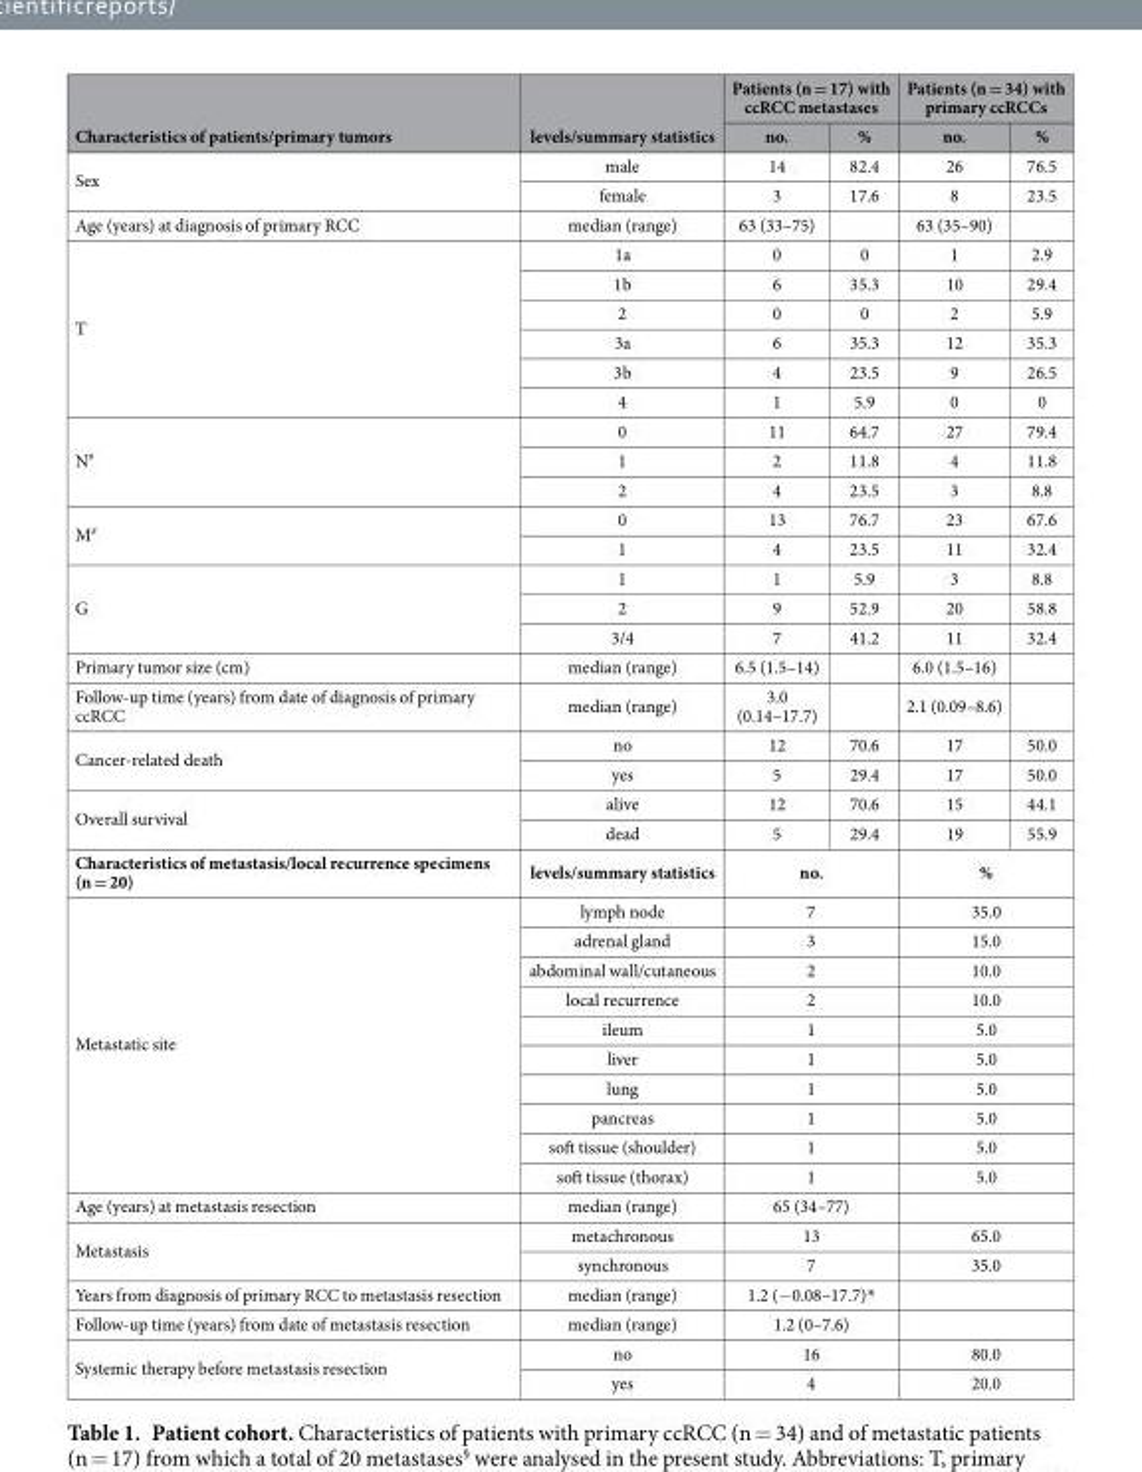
<table><thead><tr><td rowspan="2">Characteristics of patients/primary tumors</td><td rowspan="2">levels/summary statistics</td><td colspan="2">Patients (n = 17) with ccRCC metastases</td><td colspan="2">Patients (n = 34) with primary ccRCCs</td></tr><tr><td>no.</td><td>%</td><td>no.</td><td>%</td></tr></thead><tbody><tr><td rowspan="2">Sex</td><td>male</td><td>14</td><td>82.4</td><td>26</td><td>76.5</td></tr><tr><td>female</td><td>3</td><td>17.6</td><td>8</td><td>23.5</td></tr><tr><td>Age (years) at diagnosis of primary RCC</td><td>median (range)</td><td>63 (33–75)</td><td></td><td>63 (35–90)</td><td></td></tr><tr><td rowspan="6">T</td><td>1a</td><td>0</td><td>0</td><td>1</td><td>2.9</td></tr><tr><td>1b</td><td>6</td><td>35.3</td><td>10</td><td>29.4</td></tr><tr><td>2</td><td>0</td><td>0</td><td>2</td><td>5.9</td></tr><tr><td>3a</td><td>6</td><td>35.3</td><td>12</td><td>35.3</td></tr><tr><td>3b</td><td>4</td><td>23.5</td><td>9</td><td>26.5</td></tr><tr><td>4</td><td>1</td><td>5.9</td><td>0</td><td>0</td></tr><tr><td rowspan="3">N<sup>#</sup></td><td>0</td><td>11</td><td>64.7</td><td>27</td><td>79.4</td></tr><tr><td>1</td><td>2</td><td>11.8</td><td>4</td><td>11.8</td></tr><tr><td>2</td><td>4</td><td>23.5</td><td>3</td><td>8.8</td></tr><tr><td rowspan="2">M<sup>#</sup></td><td>0</td><td>13</td><td>76.7</td><td>23</td><td>67.6</td></tr><tr><td>1</td><td>4</td><td>23.5</td><td>11</td><td>32.4</td></tr><tr><td rowspan="3">G</td><td>1</td><td>1</td><td>5.9</td><td>3</td><td>8.8</td></tr><tr><td>2</td><td>9</td><td>52.9</td><td>20</td><td>58.8</td></tr><tr><td>3/4</td><td>7</td><td>41.2</td><td>11</td><td>32.4</td></tr><tr><td>Primary tumor size (cm)</td><td>median (range)</td><td>6.5 (1.5–14)</td><td></td><td>6.0 (1.5–16)</td><td></td></tr><tr><td>Follow-up time (years) from date of diagnosis of primary ccRCC</td><td>median (range)</td><td>3.0 (0.14–17.7)</td><td></td><td>2.1 (0.09–8.6)</td><td></td></tr><tr><td rowspan="2">Cancer-related death</td><td>no</td><td>12</td><td>70.6</td><td>17</td><td>50.0</td></tr><tr><td>yes</td><td>5</td><td>29.4</td><td>17</td><td>50.0</td></tr><tr><td rowspan="2">Overall survival</td><td>alive</td><td>12</td><td>70.6</td><td>15</td><td>44.1</td></tr><tr><td>dead</td><td>5</td><td>29.4</td><td>19</td><td>55.9</td></tr><tr><td>Characteristics of metastasis/local recurrence specimens (n = 20)</td><td>levels/summary statistics</td><td colspan="2">no.</td><td colspan="2">%</td></tr><tr><td rowspan="10">Metastatic site</td><td>lymph node</td><td colspan="2">7</td><td colspan="2">35.0</td></tr><tr><td>adrenal gland</td><td colspan="2">3</td><td colspan="2">15.0</td></tr><tr><td>abdominal wall/cutaneous</td><td colspan="2">2</td><td colspan="2">10.0</td></tr><tr><td>local recurrence</td><td colspan="2">2</td><td colspan="2">10.0</td></tr><tr><td>ileum</td><td colspan="2">1</td><td colspan="2">5.0</td></tr><tr><td>liver</td><td colspan="2">1</td><td colspan="2">5.0</td></tr><tr><td>lung</td><td colspan="2">1</td><td colspan="2">5.0</td></tr><tr><td>pancreas</td><td colspan="2">1</td><td colspan="2">5.0</td></tr><tr><td>soft tissue (shoulder)</td><td colspan="2">1</td><td colspan="2">5.0</td></tr><tr><td>soft tissue (thorax)</td><td colspan="2">1</td><td colspan="2">5.0</td></tr><tr><td>Age (years) at metastasis resection</td><td>median (range)</td><td colspan="2">65 (34–77)</td><td colspan="2"></td></tr><tr><td rowspan="2">Metastasis</td><td>metachronous</td><td colspan="2">13</td><td colspan="2">65.0</td></tr><tr><td>synchronous</td><td colspan="2">7</td><td colspan="2">35.0</td></tr><tr><td>Years from diagnosis of primary RCC to metastasis resection</td><td>median (range)</td><td colspan="2">1.2 (− 0.08–17.7)*</td><td colspan="2"></td></tr><tr><td>Follow-up time (years) from date of metastasis resection</td><td>median (range)</td><td colspan="2">1.2 (0–7.6)</td><td colspan="2"></td></tr><tr><td rowspan="2">Systemic therapy before metastasis resection</td><td>no</td><td colspan="2">16</td><td colspan="2">80.0</td></tr><tr><td>yes</td><td colspan="2">4</td><td colspan="2">20.0</td></tr></tbody></table>